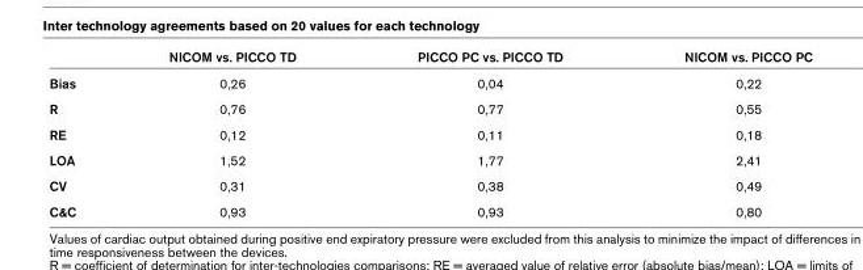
<table><thead><tr><td></td><td>NICOM vs. PICCO TD</td><td>PICCO PC vs. PICCO TD</td><td>NICOM vs. PICCO PC</td></tr></thead><tbody><tr><td>Bias</td><td>0,26</td><td>0,04</td><td>0,22</td></tr><tr><td>R</td><td>0,76</td><td>0,77</td><td>0,55</td></tr><tr><td>RE</td><td>0,12</td><td>0,11</td><td>0,18</td></tr><tr><td>LOA</td><td>1,52</td><td>1,77</td><td>2,41</td></tr><tr><td>CV</td><td>0,31</td><td>0,38</td><td>0,49</td></tr><tr><td>C&amp;C</td><td>0,93</td><td>0,93</td><td>0,80</td></tr></tbody></table>